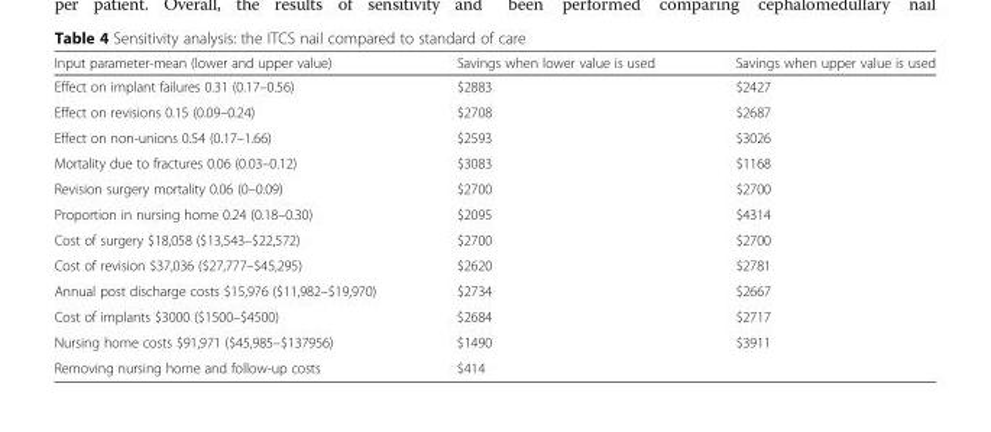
<table><thead><tr><td>Input parameter-mean (lower and upper value)</td><td>Savings when lower value is used</td><td>Savings when upper value is used</td></tr></thead><tbody><tr><td>Effect on implant failures 0.31 (0.17–0.56)</td><td>$2883</td><td>$2427</td></tr><tr><td>Effect on revisions 0.15 (0.09–0.24)</td><td>$2708</td><td>$2687</td></tr><tr><td>Effect on non-unions 0.54 (0.17–1.66)</td><td>$2593</td><td>$3026</td></tr><tr><td>Mortality due to fractures 0.06 (0.03–0.12)</td><td>$3083</td><td>$1168</td></tr><tr><td>Revision surgery mortality 0.06 (0–0.09)</td><td>$2700</td><td>$2700</td></tr><tr><td>Proportion in nursing home 0.24 (0.18–0.30)</td><td>$2095</td><td>$4314</td></tr><tr><td>Cost of surgery $18,058 ($13,543–$22,572)</td><td>$2700</td><td>$2700</td></tr><tr><td>Cost of revision $37,036 ($27,777–$45,295)</td><td>$2620</td><td>$2781</td></tr><tr><td>Annual post discharge costs $15,976 ($11,982–$19,970)</td><td>$2734</td><td>$2667</td></tr><tr><td>Cost of implants $3000 ($1500–$4500)</td><td>$2684</td><td>$2717</td></tr><tr><td>Nursing home costs $91,971 ($45,985–$137956)</td><td>$1490</td><td>$3911</td></tr><tr><td>Removing nursing home and follow-up costs</td><td colspan="2">$414</td></tr></tbody></table>